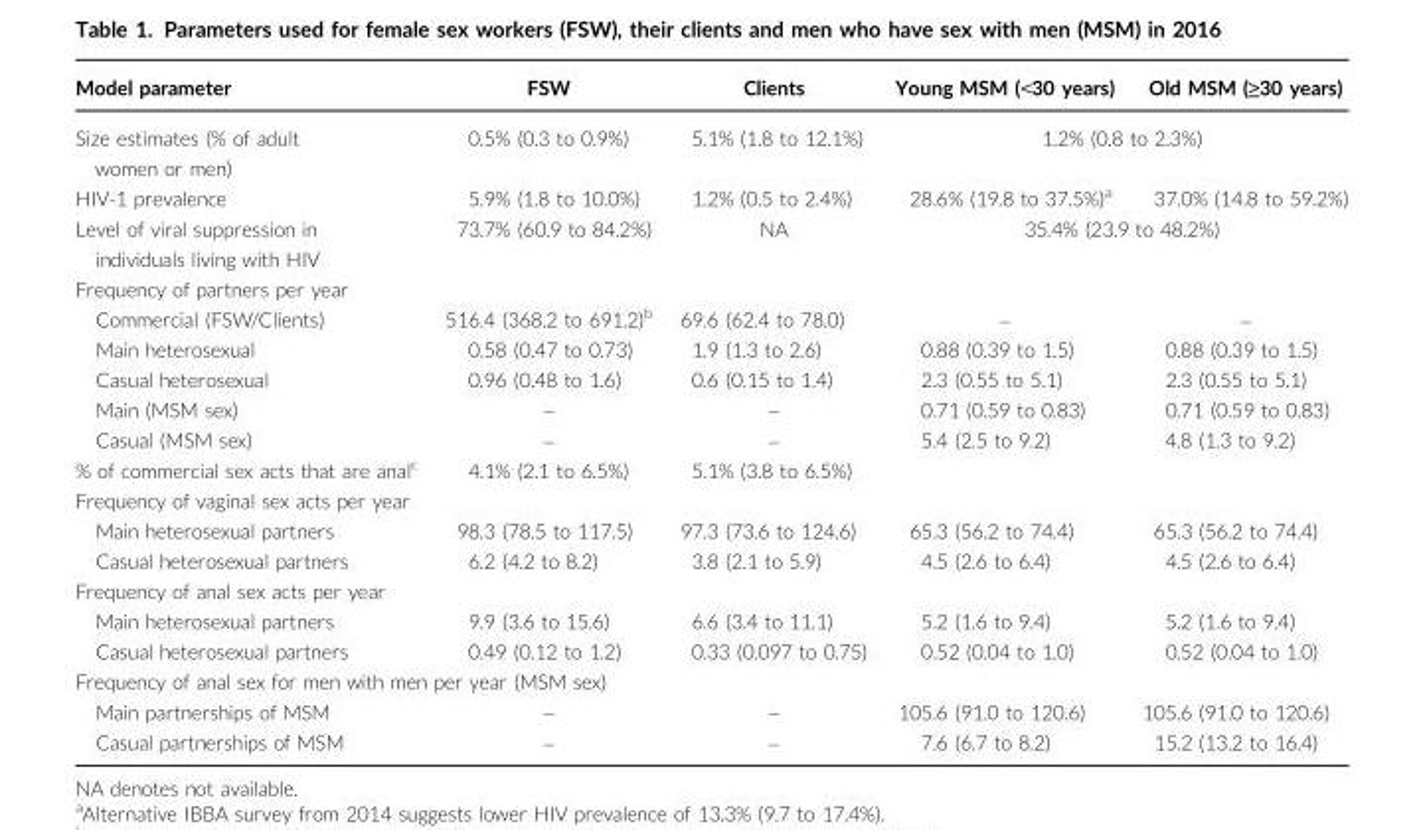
<table><thead><tr><td>Model parameter</td><td>FSW</td><td>Clients</td><td>Young MSM (&lt;30 years)</td><td>Old MSM (≥30 years)</td></tr></thead><tbody><tr><td>Size estimates (% of adult women or men)</td><td>0.5% (0.3 to 0.9%)</td><td>5.1% (1.8 to 12.1%)</td><td colspan="2">1.2% (0.8 to 2.3%)</td></tr><tr><td>HIV-1 prevalence</td><td>5.9% (1.8 to 10.0%)</td><td>1.2% (0.5 to 2.4%)</td><td>28.6% (19.8 to 37.5%)<sup>a</sup></td><td>37.0% (14.8 to 59.2%)</td></tr><tr><td>Level of viral suppression in individuals living with HIV</td><td>73.7% (60.9 to 84.2%)</td><td>NA</td><td colspan="2">35.4% (23.9 to 48.2%)</td></tr><tr><td colspan="5">Frequency of partners per year</td></tr><tr><td>Commercial (FSW/Clients)</td><td>516.4 (368.2 to 691.2)<sup>b</sup></td><td>69.6 (62.4 to 78.0)</td><td>–</td><td>–</td></tr><tr><td>Main heterosexual</td><td>0.58 (0.47 to 0.73)</td><td>1.9 (1.3 to 2.6)</td><td>0.88 (0.39 to 1.5)</td><td>0.88 (0.39 to 1.5)</td></tr><tr><td>Casual heterosexual</td><td>0.96 (0.48 to 1.6)</td><td>0.6 (0.15 to 1.4)</td><td>2.3 (0.55 to 5.1)</td><td>2.3 (0.55 to 5.1)</td></tr><tr><td>Main (MSM sex)</td><td>–</td><td>–</td><td>0.71 (0.59 to 0.83)</td><td>0.71 (0.59 to 0.83)</td></tr><tr><td>Casual (MSM sex)</td><td>–</td><td>–</td><td>5.4 (2.5 to 9.2)</td><td>4.8 (1.3 to 9.2)</td></tr><tr><td>% of commercial sex acts that are anal<sup>c</sup></td><td>4.1% (2.1 to 6.5%)</td><td>5.1% (3.8 to 6.5%)</td><td></td><td></td></tr><tr><td colspan="5">Frequency of vaginal sex acts per year</td></tr><tr><td>Main heterosexual partners</td><td>98.3 (78.5 to 117.5)</td><td>97.3 (73.6 to 124.6)</td><td>65.3 (56.2 to 74.4)</td><td>65.3 (56.2 to 74.4)</td></tr><tr><td>Casual heterosexual partners</td><td>6.2 (4.2 to 8.2)</td><td>3.8 (2.1 to 5.9)</td><td>4.5 (2.6 to 6.4)</td><td>4.5 (2.6 to 6.4)</td></tr><tr><td colspan="5">Frequency of anal sex acts per year</td></tr><tr><td>Main heterosexual partners</td><td>9.9 (3.6 to 15.6)</td><td>6.6 (3.4 to 11.1)</td><td>5.2 (1.6 to 9.4)</td><td>5.2 (1.6 to 9.4)</td></tr><tr><td>Casual heterosexual partners</td><td>0.49 (0.12 to 1.2)</td><td>0.33 (0.097 to 0.75)</td><td>0.52 (0.04 to 1.0)</td><td>0.52 (0.04 to 1.0)</td></tr><tr><td colspan="5">Frequency of anal sex for men with men per year (MSM sex)</td></tr><tr><td>Main partnerships of MSM</td><td>–</td><td>–</td><td>105.6 (91.0 to 120.6)</td><td>105.6 (91.0 to 120.6)</td></tr><tr><td>Casual partnerships of MSM</td><td>–</td><td>–</td><td>7.6 (6.7 to 8.2)</td><td>15.2 (13.2 to 16.4)</td></tr></tbody></table>